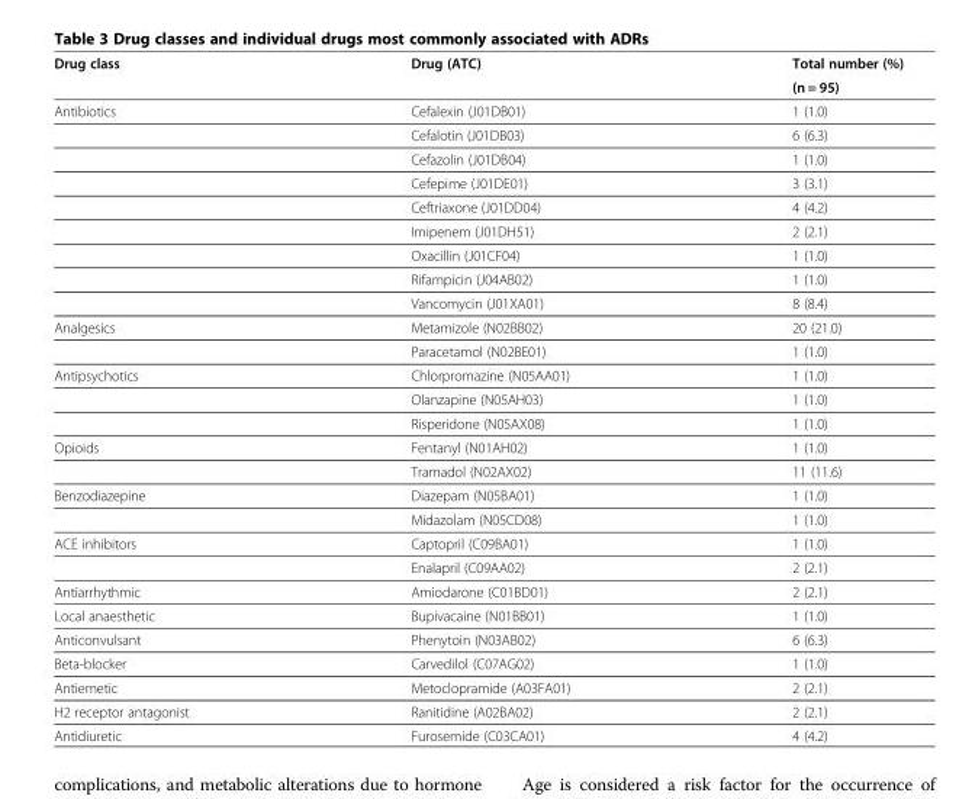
<table><thead><tr><td rowspan="2">Drug class</td><td rowspan="2">Drug (ATC)</td><td rowspan="2">Total number (%) (n = 95)</td></tr><tr></tr></thead><tbody><tr><td rowspan="9">Antibiotics</td><td>Cefalexin (J01DB01)</td><td>1 (1.0)</td></tr><tr><td>Cefalotin (J01DB03)</td><td>6 (6.3)</td></tr><tr><td>Cefazolin (J01DB04)</td><td>1 (1.0)</td></tr><tr><td>Cefepime (J01DE01)</td><td>3 (3.1)</td></tr><tr><td>Ceftriaxone (J01DD04)</td><td>4 (4.2)</td></tr><tr><td>Imipenem (J01DH51)</td><td>2 (2.1)</td></tr><tr><td>Oxacillin (J01CF04)</td><td>1 (1.0)</td></tr><tr><td>Rifampicin (J04AB02)</td><td>1 (1.0)</td></tr><tr><td>Vancomycin (J01XA01)</td><td>8 (8.4)</td></tr><tr><td rowspan="2">Analgesics</td><td>Metamizole (N02BB02)</td><td>20 (21.0)</td></tr><tr><td>Paracetamol (N02BE01)</td><td>1 (1.0)</td></tr><tr><td rowspan="3">Antipsychotics</td><td>Chlorpromazine (N05AA01)</td><td>1 (1.0)</td></tr><tr><td>Olanzapine (N05AH03)</td><td>1 (1.0)</td></tr><tr><td>Risperidone (N05AX08)</td><td>1 (1.0)</td></tr><tr><td rowspan="2">Opioids</td><td>Fentanyl (N01AH02)</td><td>1 (1.0)</td></tr><tr><td>Tramadol (N02AX02)</td><td>11 (11.6)</td></tr><tr><td rowspan="2">Benzodiazepine</td><td>Diazepam (N05BA01)</td><td>1 (1.0)</td></tr><tr><td>Midazolam (N05CD08)</td><td>1 (1.0)</td></tr><tr><td rowspan="2">ACE inhibitors</td><td>Captopril (C09BA01)</td><td>1 (1.0)</td></tr><tr><td>Enalapril (C09AA02)</td><td>2 (2.1)</td></tr><tr><td>Antiarrhythmic</td><td>Amiodarone (C01BD01)</td><td>2 (2.1)</td></tr><tr><td>Local anaesthetic</td><td>Bupivacaine (N01BB01)</td><td>1 (1.0)</td></tr><tr><td>Anticonvulsant</td><td>Phenytoin (N03AB02)</td><td>6 (6.3)</td></tr><tr><td>Beta-blocker</td><td>Carvedilol (C07AG02)</td><td>1 (1.0)</td></tr><tr><td>Antiemetic</td><td>Metoclopramide (A03FA01)</td><td>2 (2.1)</td></tr><tr><td>H2 receptor antagonist</td><td>Ranitidine (A02BA02)</td><td>2 (2.1)</td></tr><tr><td>Antidiuretic</td><td>Furosemide (C03CA01)</td><td>4 (4.2)</td></tr></tbody></table>